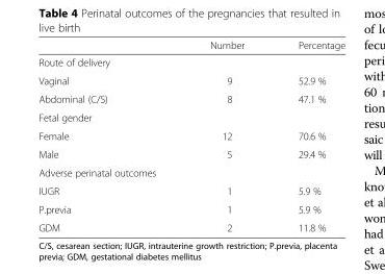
<table><thead><tr><td></td><td>Number</td><td>Percentage</td></tr></thead><tbody><tr><td colspan="3">Route of delivery</td></tr><tr><td>Vaginal</td><td>9</td><td>52.9 %</td></tr><tr><td>Abdominal (C/S)</td><td>8</td><td>47.1 %</td></tr><tr><td colspan="3">Fetal gender</td></tr><tr><td>Female</td><td>12</td><td>70.6 %</td></tr><tr><td>Male</td><td>5</td><td>29.4 %</td></tr><tr><td colspan="3">Adverse perinatal outcomes</td></tr><tr><td>IUGR</td><td>1</td><td>5.9 %</td></tr><tr><td>P.previa</td><td>1</td><td>5.9 %</td></tr><tr><td>GDM</td><td>2</td><td>11.8 %</td></tr></tbody></table>